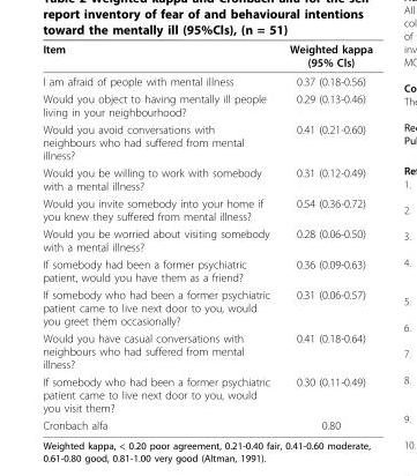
<table><thead><tr><td>Item</td><td>Weighted kappa (95% Cls)</td></tr></thead><tbody><tr><td>I am afraid of people with mental illness</td><td>0.37 (0.18-0.56)</td></tr><tr><td>Would you object to having mentally ill people living in your neighbourhood?</td><td>0.29 (0.13-0.46)</td></tr><tr><td>Would you avoid conversations with neighbours who had suffered from mental illness?</td><td>0.41 (0.21-0.60)</td></tr><tr><td>Would you be willing to work with somebody with a mental illness?</td><td>0.31 (0.12-0.49)</td></tr><tr><td>Would you invite somebody into your home if you knew they suffered from mental illness?</td><td>0.54 (0.36-0.72)</td></tr><tr><td>Would you be worried about visiting somebody with a mental illness?</td><td>0.28 (0.06-0.50)</td></tr><tr><td>If somebody had been a former psychiatric patient, would you have them as a friend?</td><td>0.36 (0.09-0.63)</td></tr><tr><td>If somebody who had been a former psychiatric patient came to live next door to you, would you greet them occasionally?</td><td>0.31 (0.06-0.57)</td></tr><tr><td>Would you have casual conversations with neighbours who had suffered from mental illness?</td><td>0.41 (0.18-0.64)</td></tr><tr><td>If somebody who had been a former psychiatric patient came to live next door to you, would you visit them?</td><td>0.30 (0.11-0.49)</td></tr><tr><td>Cronbach alfa</td><td>0.80</td></tr></tbody></table>